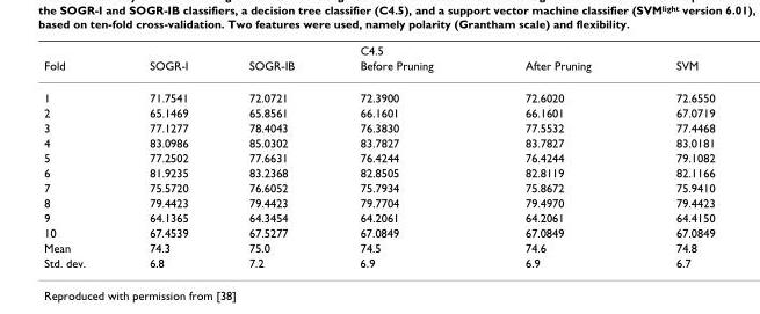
<table><thead><tr><td rowspan="2">Fold</td><td rowspan="2">SOGR-I</td><td rowspan="2">SOGR-IB</td><td colspan="2">C4.5</td><td rowspan="2">SVM</td></tr><tr><td>Before Pruning</td><td>After Pruning</td></tr></thead><tbody><tr><td>1</td><td>71.7541</td><td>72.0721</td><td>72.3900</td><td>72.6020</td><td>72.6550</td></tr><tr><td>2</td><td>65.1469</td><td>65.8561</td><td>66.1601</td><td>66.1601</td><td>67.0719</td></tr><tr><td>3</td><td>77.1277</td><td>78.4043</td><td>76.3830</td><td>77.5532</td><td>77.4468</td></tr><tr><td>4</td><td>83.0986</td><td>85.0302</td><td>83.7827</td><td>83.7827</td><td>83.0181</td></tr><tr><td>5</td><td>77.2502</td><td>77.6631</td><td>76.4244</td><td>76.4244</td><td>79.1082</td></tr><tr><td>6</td><td>81.9235</td><td>83.2368</td><td>82.8505</td><td>82.8119</td><td>82.1166</td></tr><tr><td>7</td><td>75.5720</td><td>76.6052</td><td>75.7934</td><td>75.8672</td><td>75.9410</td></tr><tr><td>8</td><td>79.4423</td><td>79.4423</td><td>79.7704</td><td>79.4970</td><td>79.4423</td></tr><tr><td>9</td><td>64.1365</td><td>64.3454</td><td>64.2061</td><td>64.2061</td><td>64.4150</td></tr><tr><td>10</td><td>67.4539</td><td>67.5277</td><td>67.0849</td><td>67.0849</td><td>67.0849</td></tr><tr><td>Mean</td><td>74.3</td><td>75.0</td><td>74.5</td><td>74.6</td><td>74.8</td></tr><tr><td>Std. dev.</td><td>6.8</td><td>7.2</td><td>6.9</td><td>6.9</td><td>6.7</td></tr></tbody></table>